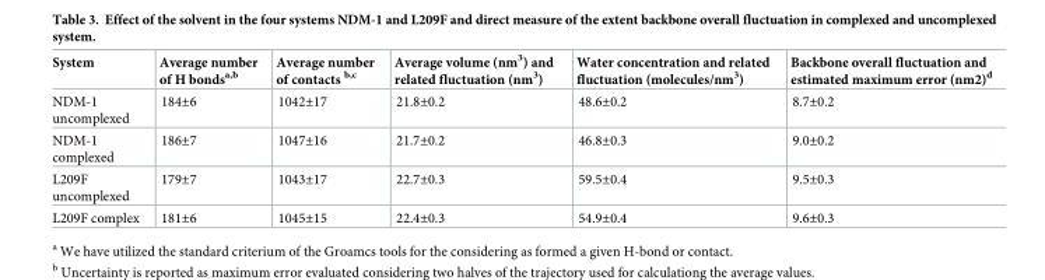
<table><thead><tr><td>System</td><td>Average number of H bonds<sup>a,b</sup></td><td>Average number of contacts <sup>b,c</sup></td><td>Average volume (nm<sup>3</sup>) and related fluctuation (nm<sup>3</sup>)</td><td>Water concentration and related fluctuation (molecules/nm<sup>3</sup>)</td><td>Backbone overall fluctuation and estimated maximum error (nm2)<sup>d</sup></td></tr></thead><tbody><tr><td>NDM-1 uncomplexed</td><td>184±6</td><td>1042±17</td><td>21.8±0.2</td><td>48.6±0.2</td><td>8.7±0.2</td></tr><tr><td>NDM-1 complexed</td><td>186±7</td><td>1047±16</td><td>21.7±0.2</td><td>46.8±0.3</td><td>9.0±0.2</td></tr><tr><td>L209F uncomplexed</td><td>179±7</td><td>1043±17</td><td>22.7±0.3</td><td>59.5±0.4</td><td>9.5±0.3</td></tr><tr><td>L209F complex</td><td>181±6</td><td>1045±15</td><td>22.4±0.3</td><td>54.9±0.4</td><td>9.6±0.3</td></tr></tbody></table>